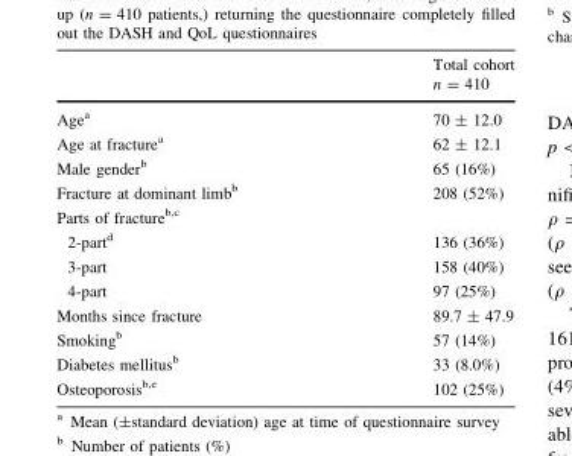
<table><thead><tr><td></td><td>Total cohort n = 410</td></tr></thead><tbody><tr><td>Age<sup>a</sup></td><td>70 ± 12.0</td></tr><tr><td>Age at fracture<sup>a</sup></td><td>62 ± 12.1</td></tr><tr><td>Male gender<sup>b</sup></td><td>65 (16%)</td></tr><tr><td>Fracture at dominant limb<sup>b</sup></td><td>208 (52%)</td></tr><tr><td colspan="2">Parts of fracture<sup>b,c</sup></td></tr><tr><td>2-part<sup>d</sup></td><td>136 (36%)</td></tr><tr><td>3-part</td><td>158 (40%)</td></tr><tr><td>4-part</td><td>97 (25%)</td></tr><tr><td>Months since fracture</td><td>89.7 ± 47.9</td></tr><tr><td>Smoking<sup>b</sup></td><td>57 (14%)</td></tr><tr><td>Diabetes mellitus<sup>b</sup></td><td>33 (8.0%)</td></tr><tr><td>Osteoporosis<sup>b,e</sup></td><td>102 (25%)</td></tr></tbody></table>